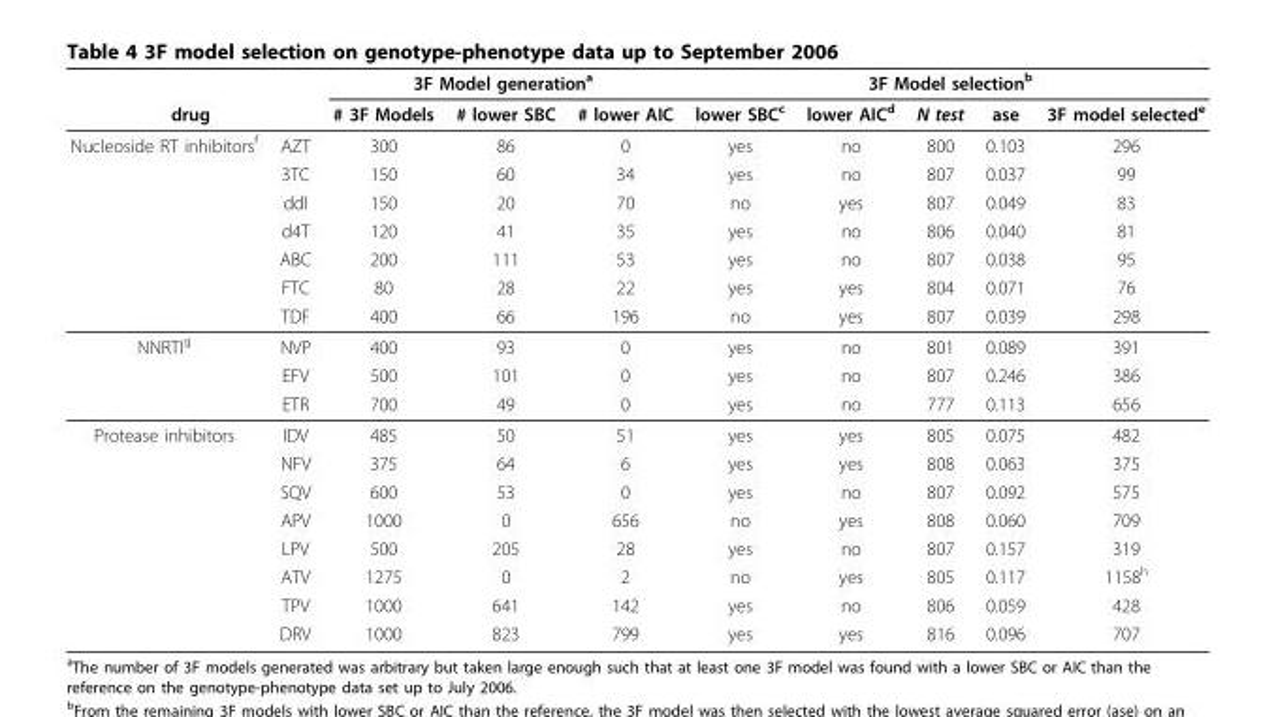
<table><thead><tr><td></td><td></td><td colspan="3">3F Model generation<sup>a</sup></td><td colspan="5">3F Model selection<sup>b</sup></td></tr><tr><td colspan="2">drug</td><td># 3F Models</td><td># lower SBC</td><td># lower AIC</td><td>lower SBC<sup>c</sup></td><td>lower AIC<sup>d</sup></td><td>N test</td><td>ase</td><td>3F model selected<sup>e</sup></td></tr></thead><tbody><tr><td rowspan="7">Nucleoside RT inhibitors<sup>f</sup></td><td>AZT</td><td>300</td><td>86</td><td>0</td><td>yes</td><td>no</td><td>800</td><td>0.103</td><td>296</td></tr><tr><td>3TC</td><td>150</td><td>60</td><td>34</td><td>yes</td><td>no</td><td>807</td><td>0.037</td><td>99</td></tr><tr><td>ddI</td><td>150</td><td>20</td><td>70</td><td>no</td><td>yes</td><td>807</td><td>0.049</td><td>83</td></tr><tr><td>d4T</td><td>120</td><td>41</td><td>35</td><td>yes</td><td>no</td><td>806</td><td>0.040</td><td>81</td></tr><tr><td>ABC</td><td>200</td><td>111</td><td>53</td><td>yes</td><td>no</td><td>807</td><td>0.038</td><td>95</td></tr><tr><td>FTC</td><td>80</td><td>28</td><td>22</td><td>yes</td><td>yes</td><td>804</td><td>0.071</td><td>76</td></tr><tr><td>TDF</td><td>400</td><td>66</td><td>196</td><td>no</td><td>yes</td><td>807</td><td>0.039</td><td>298</td></tr><tr><td rowspan="3">NNRTI<sup>g</sup></td><td>NVP</td><td>400</td><td>93</td><td>0</td><td>yes</td><td>no</td><td>801</td><td>0.089</td><td>391</td></tr><tr><td>EFV</td><td>500</td><td>101</td><td>0</td><td>yes</td><td>no</td><td>807</td><td>0.246</td><td>386</td></tr><tr><td>ETR</td><td>700</td><td>49</td><td>0</td><td>yes</td><td>no</td><td>777</td><td>0.113</td><td>656</td></tr><tr><td rowspan="8">Protease inhibitors</td><td>IDV</td><td>485</td><td>50</td><td>51</td><td>yes</td><td>yes</td><td>805</td><td>0.075</td><td>482</td></tr><tr><td>NFV</td><td>375</td><td>64</td><td>6</td><td>yes</td><td>yes</td><td>808</td><td>0.063</td><td>375</td></tr><tr><td>SQV</td><td>600</td><td>53</td><td>0</td><td>yes</td><td>no</td><td>807</td><td>0.092</td><td>575</td></tr><tr><td>APV</td><td>1000</td><td>0</td><td>656</td><td>no</td><td>yes</td><td>808</td><td>0.060</td><td>709</td></tr><tr><td>LPV</td><td>500</td><td>205</td><td>28</td><td>yes</td><td>no</td><td>807</td><td>0.157</td><td>319</td></tr><tr><td>ATV</td><td>1275</td><td>0</td><td>2</td><td>no</td><td>yes</td><td>805</td><td>0.117</td><td>1158<sup>h</sup></td></tr><tr><td>TPV</td><td>1000</td><td>641</td><td>142</td><td>yes</td><td>no</td><td>806</td><td>0.059</td><td>428</td></tr><tr><td>DRV</td><td>1000</td><td>823</td><td>799</td><td>yes</td><td>yes</td><td>816</td><td>0.096</td><td>707</td></tr></tbody></table>